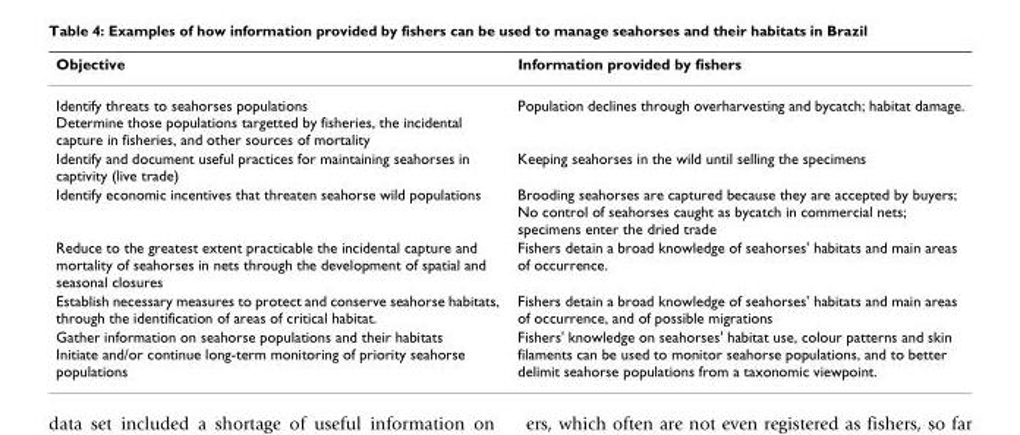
<table><thead><tr><td>Objective</td><td>Information provided by fishers</td></tr></thead><tbody><tr><td>Identify threats to seahorses populations Determine those populations targetted by fisheries, the incidental capture in fisheries, and other sources of mortality</td><td>Population declines through overharvesting and bycatch; habitat damage.</td></tr><tr><td>Identify and document useful practices for maintaining seahorses in captivity (live trade)</td><td>Keeping seahorses in the wild until selling the specimens</td></tr><tr><td>Identify economic incentives that threaten seahorse wild populations</td><td>Brooding seahorses are captured because they are accepted by buyers; No control of seahorses caught as bycatch in commercial nets; specimens enter the dried trade</td></tr><tr><td>Reduce to the greatest extent practicable the incidental capture and mortality of seahorses in nets through the development of spatial and seasonal closures</td><td>Fishers detain a broad knowledge of seahorses&#x27; habitats and main areas of occurrence.</td></tr><tr><td>Establish necessary measures to protect and conserve seahorse habitats, through the identification of areas of critical habitat.</td><td>Fishers detain a broad knowledge of seahorses&#x27; habitats and main areas of occurrence, and of possible migrations</td></tr><tr><td>Gather information on seahorse populations and their habitats Initiate and/or continue long-term monitoring of priority seahorse populations</td><td>Fishers&#x27; knowledge on seahorses&#x27; habitat use, colour patterns and skin filaments can be used to monitor seahorse populations, and to better delimit seahorse populations from a taxonomic viewpoint.</td></tr></tbody></table>